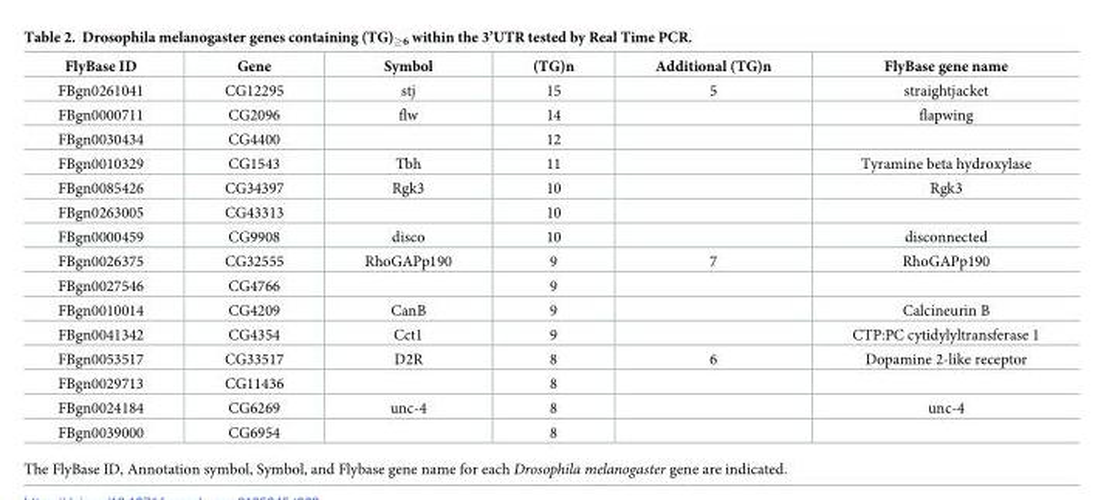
<table><thead><tr><td>FlyBase ID</td><td>Gene</td><td>Symbol</td><td>(TG)n</td><td>Additional (TG)n</td><td>FlyBase gene name</td></tr></thead><tbody><tr><td>FBgn0261041</td><td>CG12295</td><td>stj</td><td>15</td><td>5</td><td>straightjacket</td></tr><tr><td>FBgn0000711</td><td>CG2096</td><td>flw</td><td>14</td><td></td><td>flapwing</td></tr><tr><td>FBgn0030434</td><td>CG4400</td><td></td><td>12</td><td></td><td></td></tr><tr><td>FBgn0010329</td><td>CG1543</td><td>Tbh</td><td>11</td><td></td><td>Tyramine beta hydroxylase</td></tr><tr><td>FBgn0085426</td><td>CG34397</td><td>Rgk3</td><td>10</td><td></td><td>Rgk3</td></tr><tr><td>FBgn0263005</td><td>CG43313</td><td></td><td>10</td><td></td><td></td></tr><tr><td>FBgn0000459</td><td>CG9908</td><td>disco</td><td>10</td><td></td><td>disconnected</td></tr><tr><td>FBgn0026375</td><td>CG32555</td><td>RhoGAPp190</td><td>9</td><td>7</td><td>RhoGAPp190</td></tr><tr><td>FBgn0027546</td><td>CG4766</td><td></td><td>9</td><td></td><td></td></tr><tr><td>FBgn0010014</td><td>CG4209</td><td>CanB</td><td>9</td><td></td><td>Calcineurin B</td></tr><tr><td>FBgn0041342</td><td>CG4354</td><td>Cct1</td><td>9</td><td></td><td>CTP:PC cytidylyltransferase 1</td></tr><tr><td>FBgn0053517</td><td>CG33517</td><td>D2R</td><td>8</td><td>6</td><td>Dopamine 2-like receptor</td></tr><tr><td>FBgn0029713</td><td>CG11436</td><td></td><td>8</td><td></td><td></td></tr><tr><td>FBgn0024184</td><td>CG6269</td><td>unc-4</td><td>8</td><td></td><td>unc-4</td></tr><tr><td>FBgn0039000</td><td>CG6954</td><td></td><td>8</td><td></td><td></td></tr></tbody></table>